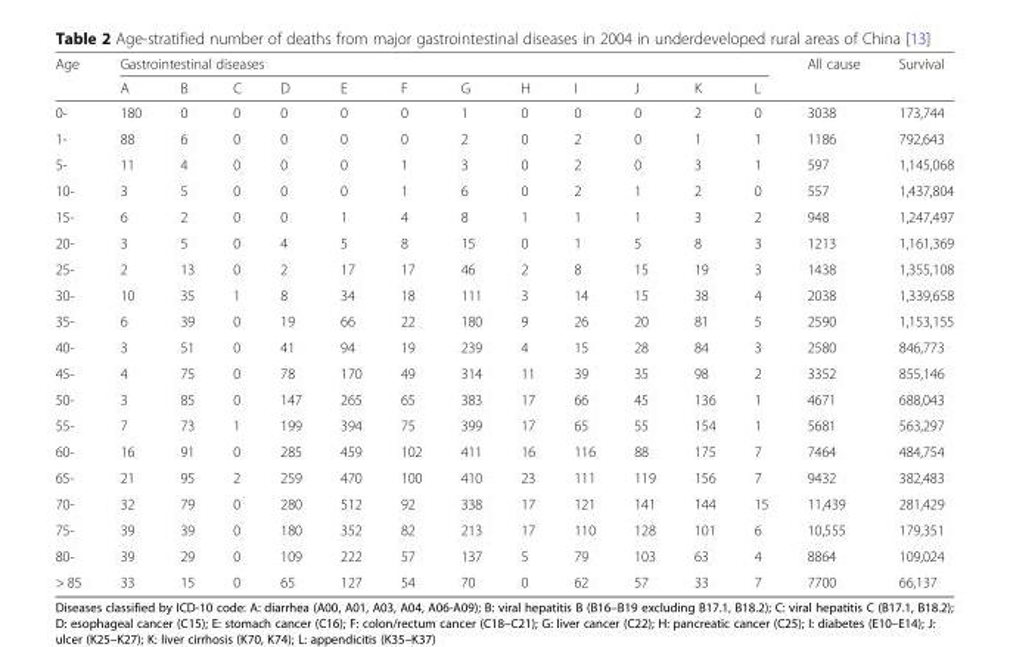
<table><thead><tr><td rowspan="2">Age</td><td colspan="12">Gastrointestinal diseases</td><td rowspan="2">All cause</td><td rowspan="2">Survival</td></tr><tr><td>A</td><td>B</td><td>C</td><td>D</td><td>E</td><td>F</td><td>G</td><td>H</td><td>I</td><td>J</td><td>K</td><td>L</td></tr></thead><tbody><tr><td>0-</td><td>180</td><td>0</td><td>0</td><td>0</td><td>0</td><td>0</td><td>1</td><td>0</td><td>0</td><td>0</td><td>2</td><td>0</td><td>3038</td><td>173,744</td></tr><tr><td>1-</td><td>88</td><td>6</td><td>0</td><td>0</td><td>0</td><td>0</td><td>2</td><td>0</td><td>2</td><td>0</td><td>1</td><td>1</td><td>1186</td><td>792,643</td></tr><tr><td>5-</td><td>11</td><td>4</td><td>0</td><td>0</td><td>0</td><td>1</td><td>3</td><td>0</td><td>2</td><td>0</td><td>3</td><td>1</td><td>597</td><td>1,145,068</td></tr><tr><td>10-</td><td>3</td><td>5</td><td>0</td><td>0</td><td>0</td><td>1</td><td>6</td><td>0</td><td>2</td><td>1</td><td>2</td><td>0</td><td>557</td><td>1,437,804</td></tr><tr><td>15-</td><td>6</td><td>2</td><td>0</td><td>0</td><td>1</td><td>4</td><td>8</td><td>1</td><td>1</td><td>1</td><td>3</td><td>2</td><td>948</td><td>1,247,497</td></tr><tr><td>20-</td><td>3</td><td>5</td><td>0</td><td>4</td><td>5</td><td>8</td><td>15</td><td>0</td><td>1</td><td>5</td><td>8</td><td>3</td><td>1213</td><td>1,161,369</td></tr><tr><td>25-</td><td>2</td><td>13</td><td>0</td><td>2</td><td>17</td><td>17</td><td>46</td><td>2</td><td>8</td><td>15</td><td>19</td><td>3</td><td>1438</td><td>1,355,108</td></tr><tr><td>30-</td><td>10</td><td>35</td><td>1</td><td>8</td><td>34</td><td>18</td><td>111</td><td>3</td><td>14</td><td>15</td><td>38</td><td>4</td><td>2038</td><td>1,339,658</td></tr><tr><td>35-</td><td>6</td><td>39</td><td>0</td><td>19</td><td>66</td><td>22</td><td>180</td><td>9</td><td>26</td><td>20</td><td>81</td><td>5</td><td>2590</td><td>1,153,155</td></tr><tr><td>40-</td><td>3</td><td>51</td><td>0</td><td>41</td><td>94</td><td>19</td><td>239</td><td>4</td><td>15</td><td>28</td><td>84</td><td>3</td><td>2580</td><td>846,773</td></tr><tr><td>45-</td><td>4</td><td>75</td><td>0</td><td>78</td><td>170</td><td>49</td><td>314</td><td>11</td><td>39</td><td>35</td><td>98</td><td>2</td><td>3352</td><td>855,146</td></tr><tr><td>50-</td><td>3</td><td>85</td><td>0</td><td>147</td><td>265</td><td>65</td><td>383</td><td>17</td><td>66</td><td>45</td><td>136</td><td>1</td><td>4671</td><td>688,043</td></tr><tr><td>55-</td><td>7</td><td>73</td><td>1</td><td>199</td><td>394</td><td>75</td><td>399</td><td>17</td><td>65</td><td>55</td><td>154</td><td>1</td><td>5681</td><td>563,297</td></tr><tr><td>60-</td><td>16</td><td>91</td><td>0</td><td>285</td><td>459</td><td>102</td><td>411</td><td>16</td><td>116</td><td>88</td><td>175</td><td>7</td><td>7464</td><td>484,754</td></tr><tr><td>65-</td><td>21</td><td>95</td><td>2</td><td>259</td><td>470</td><td>100</td><td>410</td><td>23</td><td>111</td><td>119</td><td>156</td><td>7</td><td>9432</td><td>382,483</td></tr><tr><td>70-</td><td>32</td><td>79</td><td>0</td><td>280</td><td>512</td><td>92</td><td>338</td><td>17</td><td>121</td><td>141</td><td>144</td><td>15</td><td>11,439</td><td>281,429</td></tr><tr><td>75-</td><td>39</td><td>39</td><td>0</td><td>180</td><td>352</td><td>82</td><td>213</td><td>17</td><td>110</td><td>128</td><td>101</td><td>6</td><td>10,555</td><td>179,351</td></tr><tr><td>80-</td><td>39</td><td>29</td><td>0</td><td>109</td><td>222</td><td>57</td><td>137</td><td>5</td><td>79</td><td>103</td><td>63</td><td>4</td><td>8864</td><td>109,024</td></tr><tr><td>&gt; 85</td><td>33</td><td>15</td><td>0</td><td>65</td><td>127</td><td>54</td><td>70</td><td>0</td><td>62</td><td>57</td><td>33</td><td>7</td><td>7700</td><td>66,137</td></tr></tbody></table>